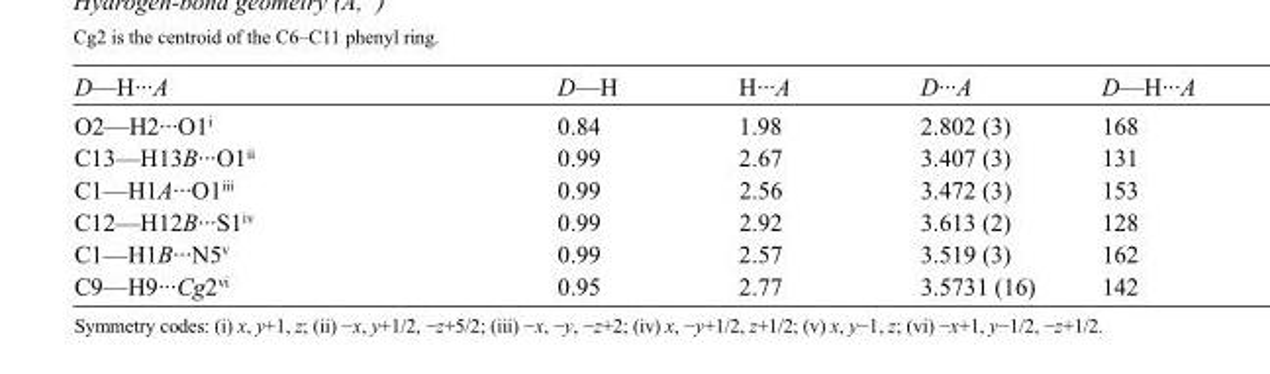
<table><tbody><tr><td>D—H···A</td><td>D—H</td><td>H···A</td><td>D···A</td><td>D—H···A</td></tr><tr><td>O2—H2···O1<sup>i</sup></td><td>0.84</td><td>1.98</td><td>2.802 (3)</td><td>168</td></tr><tr><td>C13—H13B···O1<sup>ii</sup></td><td>0.99</td><td>2.67</td><td>3.407 (3)</td><td>131</td></tr><tr><td>C1—H1A···O1<sup>iii</sup></td><td>0.99</td><td>2.56</td><td>3.472 (3)</td><td>153</td></tr><tr><td>C12—H12B···S1<sup>iv</sup></td><td>0.99</td><td>2.92</td><td>3.613 (2)</td><td>128</td></tr><tr><td>C1—H1B···N5<sup>v</sup></td><td>0.99</td><td>2.57</td><td>3.519 (3)</td><td>162</td></tr><tr><td>C9—H9···Cg2<sup>vi</sup></td><td>0.95</td><td>2.77</td><td>3.5731 (16)</td><td>142</td></tr></tbody></table>